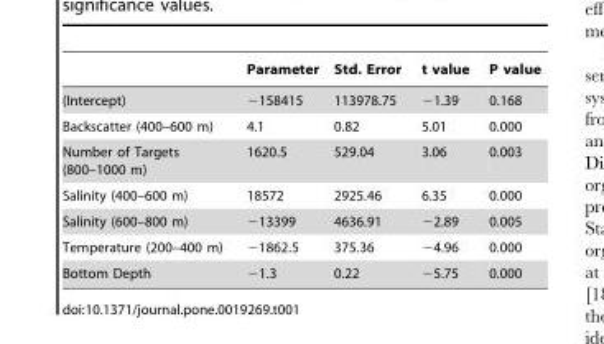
<table><thead><tr><td></td><td>Parameter</td><td>Std. Error</td><td>t value</td><td>P value</td></tr></thead><tbody><tr><td>(Intercept)</td><td>−158415</td><td>113978.75</td><td>−1.39</td><td>0.168</td></tr><tr><td>Backscatter (400–600 m)</td><td>4.1</td><td>0.82</td><td>5.01</td><td>0.000</td></tr><tr><td>Number of Targets (800–1000 m)</td><td>1620.5</td><td>529.04</td><td>3.06</td><td>0.003</td></tr><tr><td>Salinity (400–600 m)</td><td>18572</td><td>2925.46</td><td>6.35</td><td>0.000</td></tr><tr><td>Salinity (600–800 m)</td><td>−13399</td><td>4636.91</td><td>−2.89</td><td>0.005</td></tr><tr><td>Temperature (200–400 m)</td><td>−1862.5</td><td>375.36</td><td>−4.96</td><td>0.000</td></tr><tr><td>Bottom Depth</td><td>−1.3</td><td>0.22</td><td>−5.75</td><td>0.000</td></tr></tbody></table>